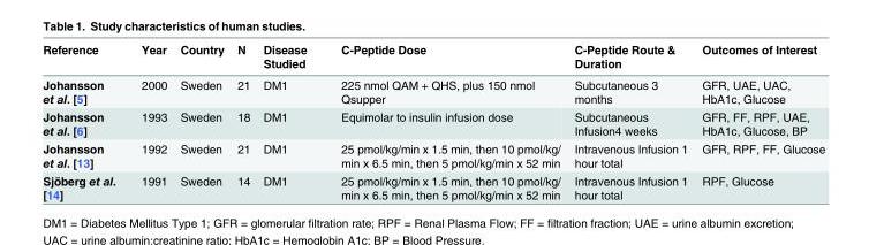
<table><thead><tr><td>Reference</td><td>Year</td><td>Country</td><td>N</td><td>Disease Studied</td><td>C-Peptide Dose</td><td>C-Peptide Route &amp; Duration</td><td>Outcomes of Interest</td></tr></thead><tbody><tr><td>Johansson et al. [5]</td><td>2000</td><td>Sweden</td><td>21</td><td>DM1</td><td>225 nmol QAM + QHS, plus 150 nmol Qsupper</td><td>Subcutaneous 3 months</td><td>GFR, UAE, UAC, HbA1c, Glucose</td></tr><tr><td>Johansson et al. [6]</td><td>1993</td><td>Sweden</td><td>18</td><td>DM1</td><td>Equimolar to insulin infusion dose</td><td>Subcutaneous Infusion4 weeks</td><td>GFR, FF, RPF, UAE, HbA1c, Glucose, BP</td></tr><tr><td>Johansson et al. [13]</td><td>1992</td><td>Sweden</td><td>21</td><td>DM1</td><td>25 pmol/kg/min x 1.5 min, then 10 pmol/kg/ min x 6.5 min, then 5 pmol/kg/min x 52 min</td><td>Intravenous Infusion 1 hour total</td><td>GFR, RPF, FF, Glucose</td></tr><tr><td>Sjöberg et al. [14]</td><td>1991</td><td>Sweden</td><td>14</td><td>DM1</td><td>25 pmol/kg/min x 1.5 min, then 10 pmol/kg/ min x 6.5 min, then 5 pmol/kg/min x 52 min</td><td>Intravenous Infusion 1 hour total</td><td>RPF, Glucose</td></tr></tbody></table>